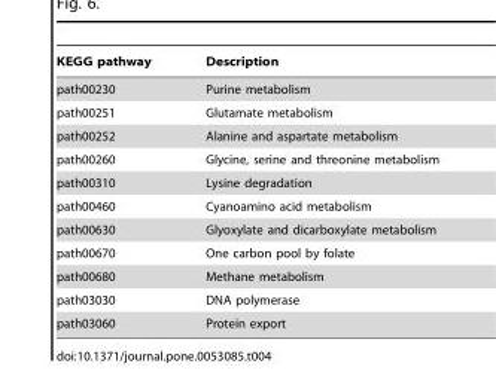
<table><thead><tr><td>KEGG pathway</td><td>Description</td></tr></thead><tbody><tr><td>path00230</td><td>Purine metabolism</td></tr><tr><td>path00251</td><td>Glutamate metabolism</td></tr><tr><td>path00252</td><td>Alanine and aspartate metabolism</td></tr><tr><td>path00260</td><td>Glycine, serine and threonine metabolism</td></tr><tr><td>path00310</td><td>Lysine degradation</td></tr><tr><td>path00460</td><td>Cyanoamino acid metabolism</td></tr><tr><td>path00630</td><td>Glyoxylate and dicarboxylate metabolism</td></tr><tr><td>path00670</td><td>One carbon pool by folate</td></tr><tr><td>path00680</td><td>Methane metabolism</td></tr><tr><td>path03030</td><td>DNA polymerase</td></tr><tr><td>path03060</td><td>Protein export</td></tr></tbody></table>